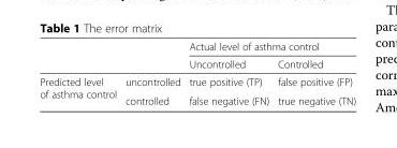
<table><thead><tr><td rowspan="2"></td><td rowspan="2"></td><td colspan="2">Actual level of asthma control</td></tr><tr><td>Uncontrolled</td><td>Controlled</td></tr></thead><tbody><tr><td rowspan="2">Predicted level of asthma control</td><td>uncontrolled</td><td>true positive (TP)</td><td>false positive (FP)</td></tr><tr><td>controlled</td><td>false negative (FN)</td><td>true negative (TN)</td></tr></tbody></table>